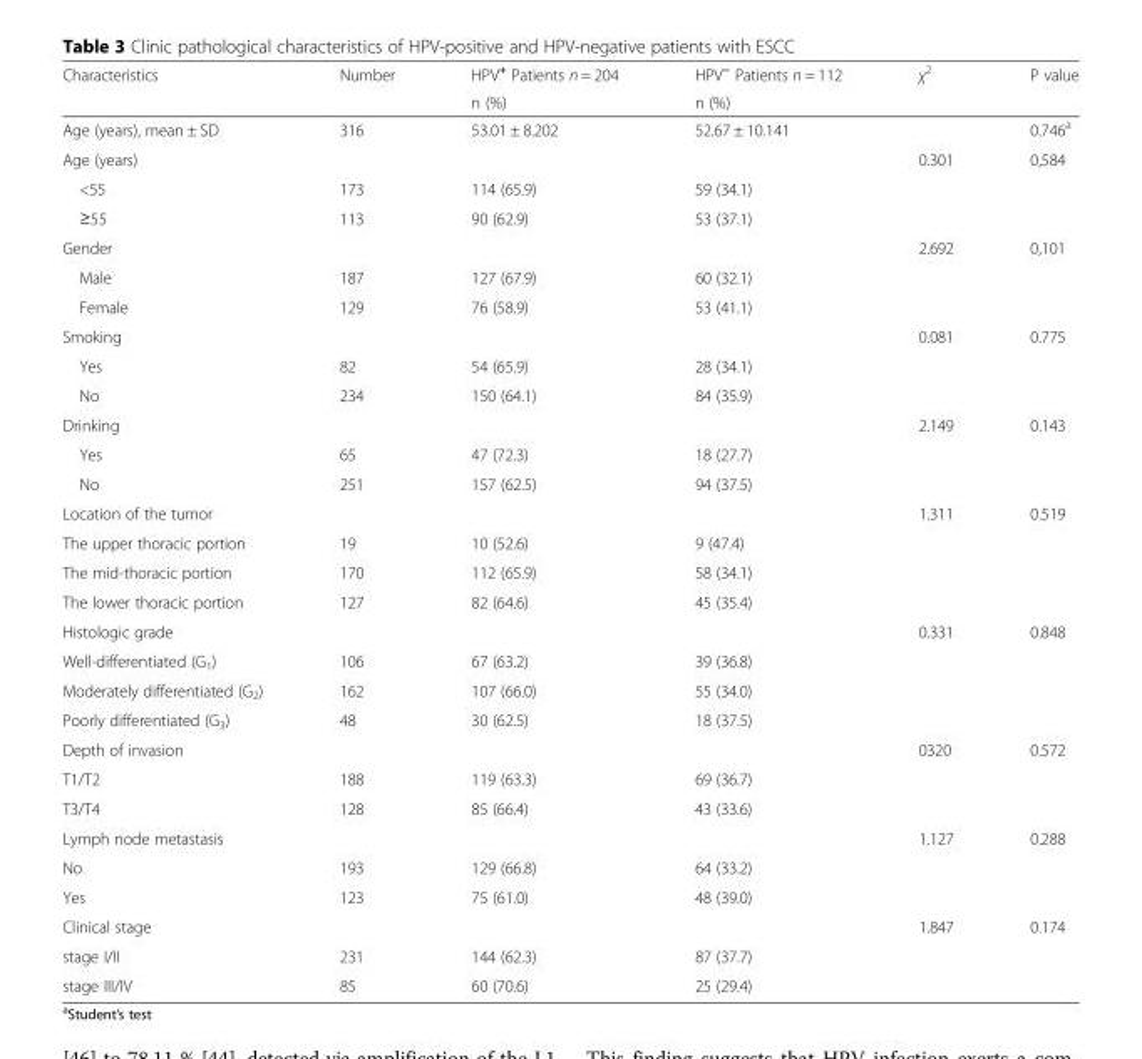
<table><thead><tr><td rowspan="2">Characteristics</td><td rowspan="2">Number</td><td rowspan="2">HPV<sup>+</sup> Patients n = 204 n (%)</td><td rowspan="2">HPV<sup>−</sup> Patients n = 112 n (%)</td><td rowspan="2">χ<sup>2</sup></td><td rowspan="2">P value</td></tr><tr></tr></thead><tbody><tr><td>Age (years), mean ± SD</td><td>316</td><td>53.01 ± 8.202</td><td>52.67 ± 10.141</td><td></td><td>0.746<sup>a</sup></td></tr><tr><td>Age (years)</td><td></td><td></td><td></td><td>0.301</td><td>0,584</td></tr><tr><td>&lt;55</td><td>173</td><td>114 (65.9)</td><td>59 (34.1)</td><td></td><td></td></tr><tr><td>≥55</td><td>113</td><td>90 (62.9)</td><td>53 (37.1)</td><td></td><td></td></tr><tr><td>Gender</td><td></td><td></td><td></td><td>2.692</td><td>0,101</td></tr><tr><td>Male</td><td>187</td><td>127 (67.9)</td><td>60 (32.1)</td><td></td><td></td></tr><tr><td>Female</td><td>129</td><td>76 (58.9)</td><td>53 (41.1)</td><td></td><td></td></tr><tr><td>Smoking</td><td></td><td></td><td></td><td>0.081</td><td>0.775</td></tr><tr><td>Yes</td><td>82</td><td>54 (65.9)</td><td>28 (34.1)</td><td></td><td></td></tr><tr><td>No</td><td>234</td><td>150 (64.1)</td><td>84 (35.9)</td><td></td><td></td></tr><tr><td>Drinking</td><td></td><td></td><td></td><td>2.149</td><td>0.143</td></tr><tr><td>Yes</td><td>65</td><td>47 (72.3)</td><td>18 (27.7)</td><td></td><td></td></tr><tr><td>No</td><td>251</td><td>157 (62.5)</td><td>94 (37.5)</td><td></td><td></td></tr><tr><td>Location of the tumor</td><td></td><td></td><td></td><td>1.311</td><td>0.519</td></tr><tr><td>The upper thoracic portion</td><td>19</td><td>10 (52.6)</td><td>9 (47.4)</td><td></td><td></td></tr><tr><td>The mid-thoracic portion</td><td>170</td><td>112 (65.9)</td><td>58 (34.1)</td><td></td><td></td></tr><tr><td>The lower thoracic portion</td><td>127</td><td>82 (64.6)</td><td>45 (35.4)</td><td></td><td></td></tr><tr><td>Histologic grade</td><td></td><td></td><td></td><td>0.331</td><td>0.848</td></tr><tr><td>Well-differentiated (G<sub>1</sub>)</td><td>106</td><td>67 (63.2)</td><td>39 (36.8)</td><td></td><td></td></tr><tr><td>Moderately differentiated (G<sub>2</sub>)</td><td>162</td><td>107 (66.0)</td><td>55 (34.0)</td><td></td><td></td></tr><tr><td>Poorly differentiated (G<sub>3</sub>)</td><td>48</td><td>30 (62.5)</td><td>18 (37.5)</td><td></td><td></td></tr><tr><td>Depth of invasion</td><td></td><td></td><td></td><td>0320</td><td>0.572</td></tr><tr><td>T1/T2</td><td>188</td><td>119 (63.3)</td><td>69 (36.7)</td><td></td><td></td></tr><tr><td>T3/T4</td><td>128</td><td>85 (66.4)</td><td>43 (33.6)</td><td></td><td></td></tr><tr><td>Lymph node metastasis</td><td></td><td></td><td></td><td>1.127</td><td>0.288</td></tr><tr><td>No</td><td>193</td><td>129 (66.8)</td><td>64 (33.2)</td><td></td><td></td></tr><tr><td>Yes</td><td>123</td><td>75 (61.0)</td><td>48 (39.0)</td><td></td><td></td></tr><tr><td>Clinical stage</td><td></td><td></td><td></td><td>1.847</td><td>0.174</td></tr><tr><td>stage I/II</td><td>231</td><td>144 (62.3)</td><td>87 (37.7)</td><td></td><td></td></tr><tr><td>stage III/IV</td><td>85</td><td>60 (70.6)</td><td>25 (29.4)</td><td></td><td></td></tr></tbody></table>